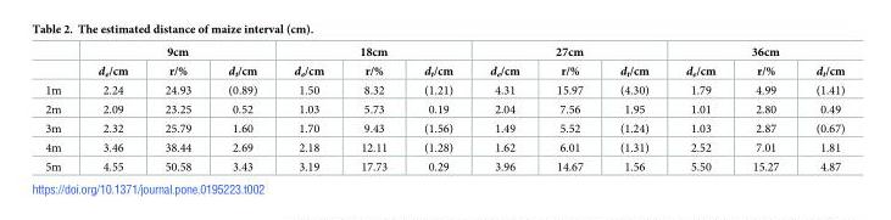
<table><thead><tr><td rowspan="2"></td><td colspan="3">9cm</td><td colspan="3">18cm</td><td colspan="3">27cm</td><td colspan="3">36cm</td></tr><tr><td>d<sub>e</sub>/cm</td><td>r/%</td><td>d<sub>t</sub>/cm</td><td>d<sub>e</sub>/cm</td><td>r/%</td><td>d<sub>t</sub>/cm</td><td>d<sub>e</sub>/cm</td><td>r/%</td><td>d<sub>t</sub>/cm</td><td>d<sub>e</sub>/cm</td><td>r/%</td><td>d<sub>t</sub>/cm</td></tr></thead><tbody><tr><td>1m</td><td>2.24</td><td>24.93</td><td>(0.89)</td><td>1.50</td><td>8.32</td><td>(1.21)</td><td>4.31</td><td>15.97</td><td>(4.30)</td><td>1.79</td><td>4.99</td><td>(1.41)</td></tr><tr><td>2m</td><td>2.09</td><td>23.25</td><td>0.52</td><td>1.03</td><td>5.73</td><td>0.19</td><td>2.04</td><td>7.56</td><td>1.95</td><td>1.01</td><td>2.80</td><td>0.49</td></tr><tr><td>3m</td><td>2.32</td><td>25.79</td><td>1.60</td><td>1.70</td><td>9.43</td><td>(1.56)</td><td>1.49</td><td>5.52</td><td>(1.24)</td><td>1.03</td><td>2.87</td><td>(0.67)</td></tr><tr><td>4m</td><td>3.46</td><td>38.44</td><td>2.69</td><td>2.18</td><td>12.11</td><td>(1.28)</td><td>1.62</td><td>6.01</td><td>(1.31)</td><td>2.52</td><td>7.01</td><td>1.81</td></tr><tr><td>5m</td><td>4.55</td><td>50.58</td><td>3.43</td><td>3.19</td><td>17.73</td><td>0.29</td><td>3.96</td><td>14.67</td><td>1.56</td><td>5.50</td><td>15.27</td><td>4.87</td></tr></tbody></table>